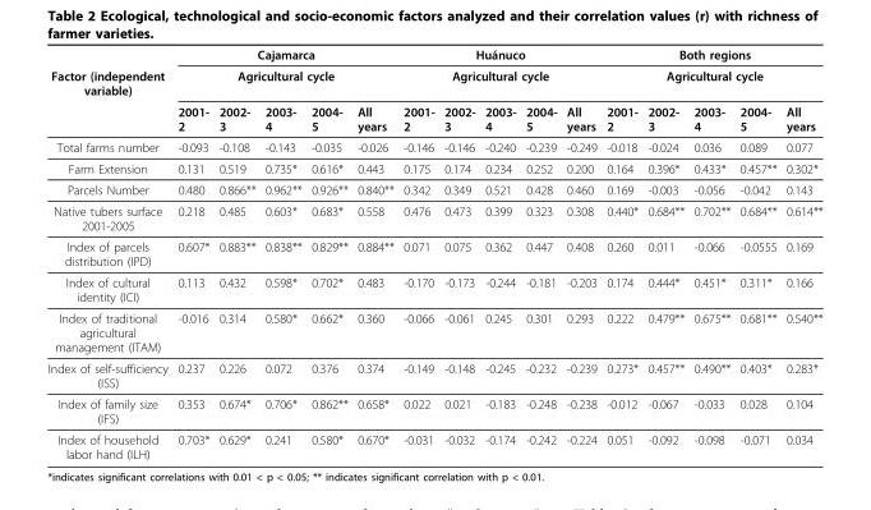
<table><thead><tr><td rowspan="3">Factor (independent variable)</td><td rowspan="2" colspan="5">Cajamarca Agricultural cycle</td><td rowspan="2" colspan="5">Huánuco Agricultural cycle</td><td rowspan="2" colspan="5">Both regions Agricultural cycle</td></tr><tr></tr><tr><td>2001- 2</td><td>2002- 3</td><td>2003- 4</td><td>2004- 5</td><td>All years</td><td>2001- 2</td><td>2002- 3</td><td>2003- 4</td><td>2004- 5</td><td>All years</td><td>2001- 2</td><td>2002- 3</td><td>2003- 4</td><td>2004- 5</td><td>All years</td></tr></thead><tbody><tr><td>Total farms number</td><td>-0.093</td><td>-0.108</td><td>-0.143</td><td>-0.035</td><td>-0.026</td><td>-0.146</td><td>-0.146</td><td>-0.240</td><td>-0.239</td><td>-0.249</td><td>-0.018</td><td>-0.024</td><td>0.036</td><td>0.089</td><td>0.077</td></tr><tr><td>Farm Extension</td><td>0.131</td><td>0.519</td><td>0.735*</td><td>0.616*</td><td>0.443</td><td>0.175</td><td>0.174</td><td>0.234</td><td>0.252</td><td>0.200</td><td>0.164</td><td>0.396*</td><td>0.433*</td><td>0.457**</td><td>0.302*</td></tr><tr><td>Parcels Number</td><td>0.480</td><td>0.866**</td><td>0.962**</td><td>0.926**</td><td>0.840**</td><td>0.342</td><td>0.349</td><td>0.521</td><td>0.428</td><td>0.460</td><td>0.169</td><td>-0.003</td><td>-0.056</td><td>-0.042</td><td>0.143</td></tr><tr><td>Native tubers surface 2001-2005</td><td>0.218</td><td>0.485</td><td>0.603*</td><td>0.683*</td><td>0.558</td><td>0.476</td><td>0.473</td><td>0.399</td><td>0.323</td><td>0.308</td><td>0.440*</td><td>0.684**</td><td>0.702**</td><td>0.684**</td><td>0.614**</td></tr><tr><td>Index of parcels distribution (IPD)</td><td>0.607*</td><td>0.883**</td><td>0.838**</td><td>0.829**</td><td>0.884**</td><td>0.071</td><td>0.075</td><td>0.362</td><td>0.447</td><td>0.408</td><td>0.260</td><td>0.011</td><td>-0.066</td><td>-0.0555</td><td>0.169</td></tr><tr><td>Index of cultural identity (ICI)</td><td>0.113</td><td>0.432</td><td>0.598*</td><td>0.702*</td><td>0.483</td><td>-0.170</td><td>-0.173</td><td>-0.244</td><td>-0.181</td><td>-0.203</td><td>0.174</td><td>0.444*</td><td>0.451*</td><td>0.311*</td><td>0.166</td></tr><tr><td>Index of traditional agricultural management (ITAM)</td><td>-0.016</td><td>0.314</td><td>0.580*</td><td>0.662*</td><td>0.360</td><td>-0.066</td><td>-0.061</td><td>0.245</td><td>0.301</td><td>0.293</td><td>0.222</td><td>0.479**</td><td>0.675**</td><td>0.681**</td><td>0.540**</td></tr><tr><td>Index of self-sufficiency (ISS)</td><td>0.237</td><td>0.226</td><td>0.072</td><td>0.376</td><td>0.374</td><td>-0.149</td><td>-0.148</td><td>-0.245</td><td>-0.232</td><td>-0.239</td><td>0.273*</td><td>0.457**</td><td>0.490**</td><td>0.403*</td><td>0.283*</td></tr><tr><td>Index of family size (IFS)</td><td>0.353</td><td>0.674*</td><td>0.706*</td><td>0.862**</td><td>0.658*</td><td>0.022</td><td>0.021</td><td>-0.183</td><td>-0.248</td><td>-0.238</td><td>-0.012</td><td>-0.067</td><td>-0.033</td><td>0.028</td><td>0.104</td></tr><tr><td>Index of household labor hand (ILH)</td><td>0.703*</td><td>0.629*</td><td>0.241</td><td>0.580*</td><td>0.670*</td><td>-0.031</td><td>-0.032</td><td>-0.174</td><td>-0.242</td><td>-0.224</td><td>0.051</td><td>-0.092</td><td>-0.098</td><td>-0.071</td><td>0.034</td></tr></tbody></table>